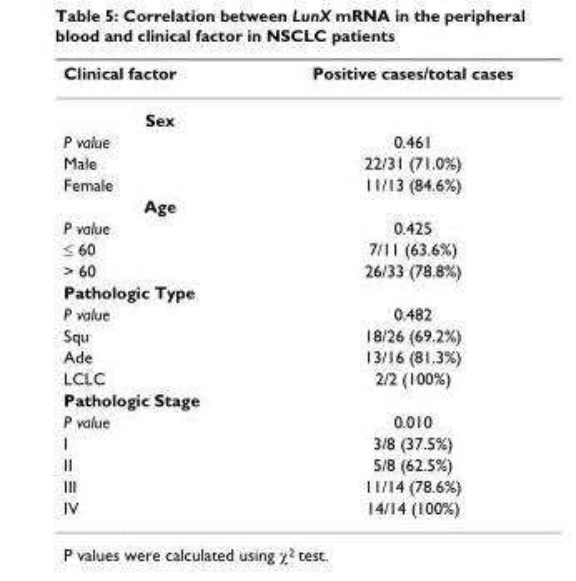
<table><thead><tr><td>Clinical factor</td><td>Positive cases/total cases</td></tr></thead><tbody><tr><td colspan="2">Sex</td></tr><tr><td>P value</td><td>0.461</td></tr><tr><td>Male</td><td>22/31 (71.0%)</td></tr><tr><td>Female</td><td>11/13 (84.6%)</td></tr><tr><td colspan="2">Age</td></tr><tr><td>P value</td><td>0.425</td></tr><tr><td>≤ 60</td><td>7/11 (63.6%)</td></tr><tr><td>&gt; 60</td><td>26/33 (78.8%)</td></tr><tr><td colspan="2">Pathologic Type</td></tr><tr><td>P value</td><td>0.482</td></tr><tr><td>Squ</td><td>18/26 (69.2%)</td></tr><tr><td>Ade</td><td>13/16 (81.3%)</td></tr><tr><td>LCLC</td><td>2/2 (100%)</td></tr><tr><td colspan="2">Pathologic Stage</td></tr><tr><td>P value</td><td>0.010</td></tr><tr><td>I</td><td>3/8 (37.5%)</td></tr><tr><td>II</td><td>5/8 (62.5%)</td></tr><tr><td>III</td><td>11/14 (78.6%)</td></tr><tr><td>IV</td><td>14/14 (100%)</td></tr></tbody></table>